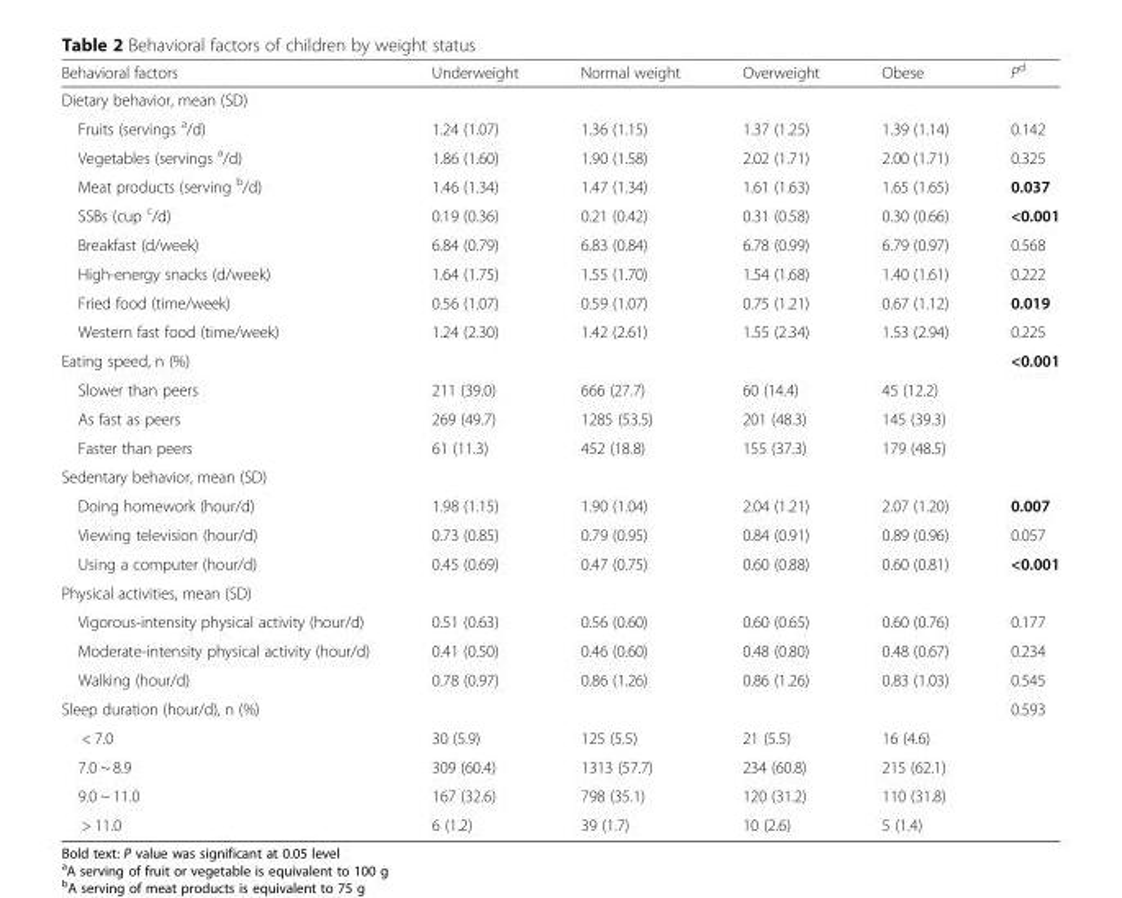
<table><thead><tr><td>Behavioral factors</td><td>Underweight</td><td>Normal weight</td><td>Overweight</td><td>Obese</td><td>P<sup>d</sup></td></tr></thead><tbody><tr><td colspan="6">Dietary behavior, mean (SD)</td></tr><tr><td>Fruits (servings <sup>a</sup>/d)</td><td>1.24 (1.07)</td><td>1.36 (1.15)</td><td>1.37 (1.25)</td><td>1.39 (1.14)</td><td>0.142</td></tr><tr><td>Vegetables (servings <sup>a</sup>/d)</td><td>1.86 (1.60)</td><td>1.90 (1.58)</td><td>2.02 (1.71)</td><td>2.00 (1.71)</td><td>0.325</td></tr><tr><td>Meat products (serving <sup>b</sup>/d)</td><td>1.46 (1.34)</td><td>1.47 (1.34)</td><td>1.61 (1.63)</td><td>1.65 (1.65)</td><td>0.037</td></tr><tr><td>SSBs (cup <sup>c</sup>/d)</td><td>0.19 (0.36)</td><td>0.21 (0.42)</td><td>0.31 (0.58)</td><td>0.30 (0.66)</td><td>&lt;0.001</td></tr><tr><td>Breakfast (d/week)</td><td>6.84 (0.79)</td><td>6.83 (0.84)</td><td>6.78 (0.99)</td><td>6.79 (0.97)</td><td>0.568</td></tr><tr><td>High-energy snacks (d/week)</td><td>1.64 (1.75)</td><td>1.55 (1.70)</td><td>1.54 (1.68)</td><td>1.40 (1.61)</td><td>0.222</td></tr><tr><td>Fried food (time/week)</td><td>0.56 (1.07)</td><td>0.59 (1.07)</td><td>0.75 (1.21)</td><td>0.67 (1.12)</td><td>0.019</td></tr><tr><td>Western fast food (time/week)</td><td>1.24 (2.30)</td><td>1.42 (2.61)</td><td>1.55 (2.34)</td><td>1.53 (2.94)</td><td>0.225</td></tr><tr><td>Eating speed, n (%)</td><td></td><td></td><td></td><td></td><td>&lt;0.001</td></tr><tr><td>Slower than peers</td><td>211 (39.0)</td><td>666 (27.7)</td><td>60 (14.4)</td><td>45 (12.2)</td><td></td></tr><tr><td>As fast as peers</td><td>269 (49.7)</td><td>1285 (53.5)</td><td>201 (48.3)</td><td>145 (39.3)</td><td></td></tr><tr><td>Faster than peers</td><td>61 (11.3)</td><td>452 (18.8)</td><td>155 (37.3)</td><td>179 (48.5)</td><td></td></tr><tr><td colspan="6">Sedentary behavior, mean (SD)</td></tr><tr><td>Doing homework (hour/d)</td><td>1.98 (1.15)</td><td>1.90 (1.04)</td><td>2.04 (1.21)</td><td>2.07 (1.20)</td><td>0.007</td></tr><tr><td>Viewing television (hour/d)</td><td>0.73 (0.85)</td><td>0.79 (0.95)</td><td>0.84 (0.91)</td><td>0.89 (0.96)</td><td>0.057</td></tr><tr><td>Using a computer (hour/d)</td><td>0.45 (0.69)</td><td>0.47 (0.75)</td><td>0.60 (0.88)</td><td>0.60 (0.81)</td><td>&lt;0.001</td></tr><tr><td colspan="6">Physical activities, mean (SD)</td></tr><tr><td>Vigorous-intensity physical activity (hour/d)</td><td>0.51 (0.63)</td><td>0.56 (0.60)</td><td>0.60 (0.65)</td><td>0.60 (0.76)</td><td>0.177</td></tr><tr><td>Moderate-intensity physical activity (hour/d)</td><td>0.41 (0.50)</td><td>0.46 (0.60)</td><td>0.48 (0.80)</td><td>0.48 (0.67)</td><td>0.234</td></tr><tr><td>Walking (hour/d)</td><td>0.78 (0.97)</td><td>0.86 (1.26)</td><td>0.86 (1.26)</td><td>0.83 (1.03)</td><td>0.545</td></tr><tr><td>Sleep duration (hour/d), n (%)</td><td></td><td></td><td></td><td></td><td>0.593</td></tr><tr><td>&lt; 7.0</td><td>30 (5.9)</td><td>125 (5.5)</td><td>21 (5.5)</td><td>16 (4.6)</td><td></td></tr><tr><td>7.0 ~ 8.9</td><td>309 (60.4)</td><td>1313 (57.7)</td><td>234 (60.8)</td><td>215 (62.1)</td><td></td></tr><tr><td>9.0 ~ 11.0</td><td>167 (32.6)</td><td>798 (35.1)</td><td>120 (31.2)</td><td>110 (31.8)</td><td></td></tr><tr><td>&gt; 11.0</td><td>6 (1.2)</td><td>39 (1.7)</td><td>10 (2.6)</td><td>5 (1.4)</td><td></td></tr></tbody></table>